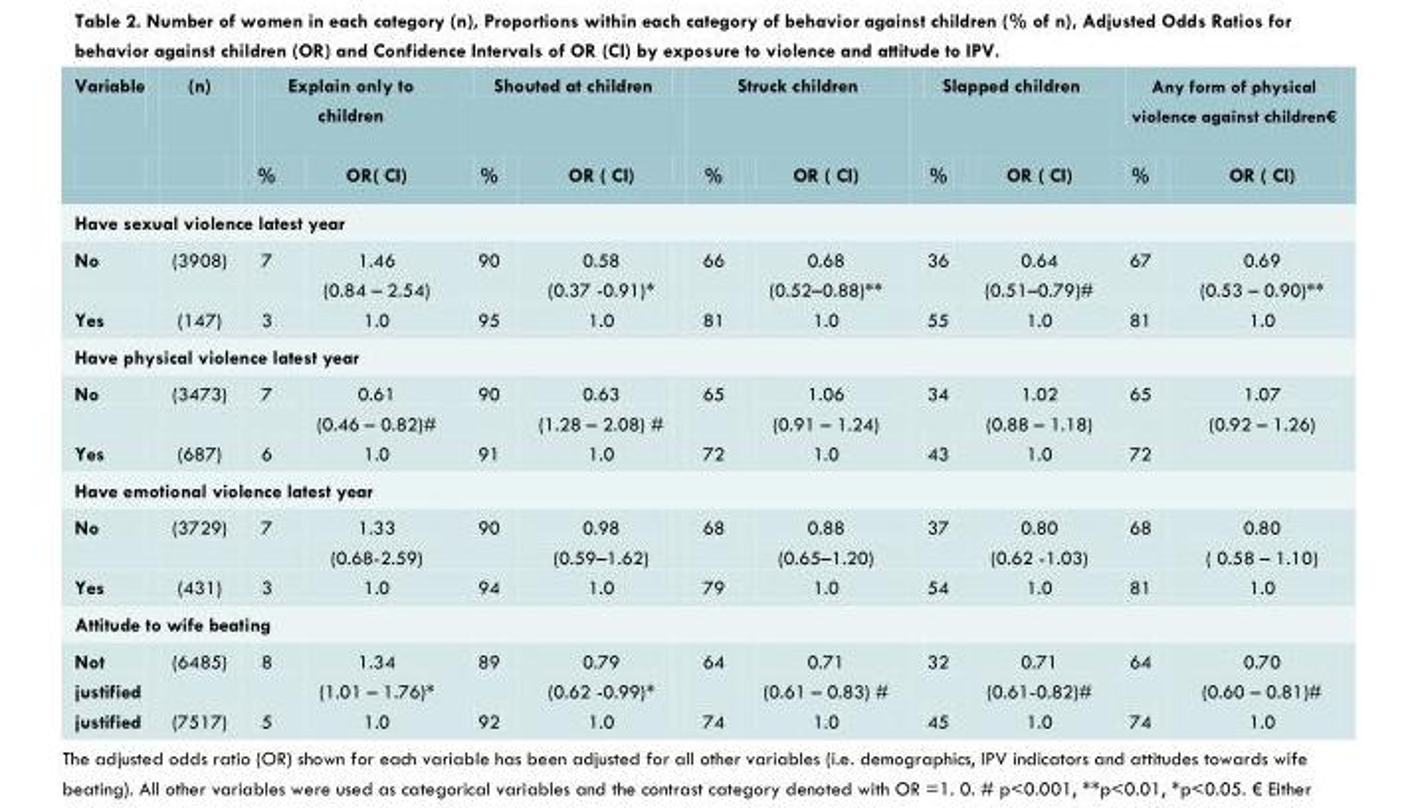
<table><thead><tr><td rowspan="2">Variable</td><td rowspan="2">(n)</td><td colspan="2">Explain only to children</td><td colspan="2">Shouted at children</td><td colspan="2">Struck children</td><td colspan="2">Slapped children</td><td colspan="2">Any form of physical violence against children€</td></tr><tr><td>%</td><td>OR( CI)</td><td>%</td><td>OR ( CI)</td><td>%</td><td>OR ( CI)</td><td>%</td><td>OR ( CI)</td><td>%</td><td>OR ( CI)</td></tr></thead><tbody><tr><td colspan="12">Have sexual violence latest year</td></tr><tr><td>No</td><td>(3908)</td><td>7</td><td>1.46 (0.84 – 2.54)</td><td>90</td><td>0.58 (0.37 -0.91)*</td><td>66</td><td>0.68 (0.52–0.88)**</td><td>36</td><td>0.64 (0.51–0.79)#</td><td>67</td><td>0.69 (0.53 – 0.90)**</td></tr><tr><td>Yes</td><td>(147)</td><td>3</td><td>1.0</td><td>95</td><td>1.0</td><td>81</td><td>1.0</td><td>55</td><td>1.0</td><td>81</td><td>1.0</td></tr><tr><td colspan="12">Have physical violence latest year</td></tr><tr><td>No</td><td>(3473)</td><td>7</td><td>0.61 (0.46 – 0.82)#</td><td>90</td><td>0.63 (1.28 – 2.08) #</td><td>65</td><td>1.06 (0.91 – 1.24)</td><td>34</td><td>1.02 (0.88 – 1.18)</td><td>65</td><td>1.07 (0.92 – 1.26)</td></tr><tr><td>Yes</td><td>(687)</td><td>6</td><td>1.0</td><td>91</td><td>1.0</td><td>72</td><td>1.0</td><td>43</td><td>1.0</td><td>72</td><td></td></tr><tr><td colspan="12">Have emotional violence latest year</td></tr><tr><td>No</td><td>(3729)</td><td>7</td><td>1.33 (0.68-2.59)</td><td>90</td><td>0.98 (0.59–1.62)</td><td>68</td><td>0.88 (0.65–1.20)</td><td>37</td><td>0.80 (0.62 -1.03)</td><td>68</td><td>0.80 ( 0.58 – 1.10)</td></tr><tr><td>Yes</td><td>(431)</td><td>3</td><td>1.0</td><td>94</td><td>1.0</td><td>79</td><td>1.0</td><td>54</td><td>1.0</td><td>81</td><td>1.0</td></tr><tr><td colspan="12">Attitude to wife beating</td></tr><tr><td>Not justified</td><td>(6485)</td><td>8</td><td>1.34 (1.01 – 1.76)*</td><td>89</td><td>0.79 (0.62 -0.99)*</td><td>64</td><td>0.71 (0.61 – 0.83) #</td><td>32</td><td>0.71 (0.61-0.82)#</td><td>64</td><td>0.70 (0.60 – 0.81)#</td></tr><tr><td>justified</td><td>(7517)</td><td>5</td><td>1.0</td><td>92</td><td>1.0</td><td>74</td><td>1.0</td><td>45</td><td>1.0</td><td>74</td><td>1.0</td></tr></tbody></table>